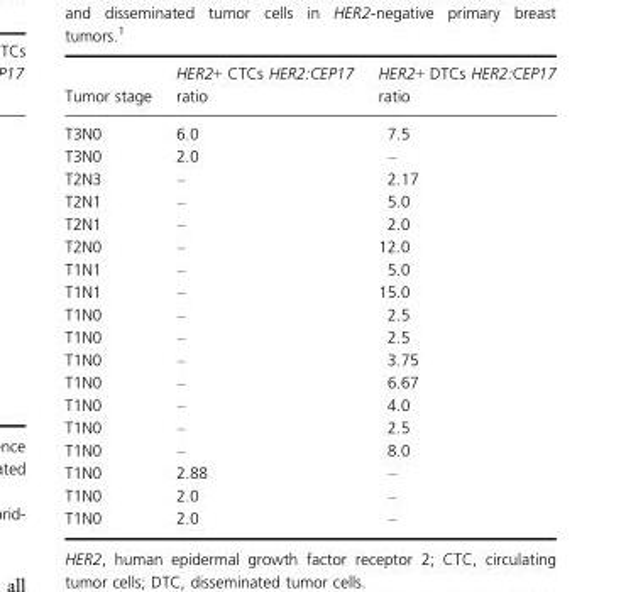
<table><thead><tr><td>Tumor stage</td><td>HER2+ CTCs HER2:CEP17 ratio</td><td>HER2+ DTCs HER2:CEP17 ratio</td></tr></thead><tbody><tr><td>T3N0</td><td>6.0</td><td>7.5</td></tr><tr><td>T3N0</td><td>2.0</td><td>–</td></tr><tr><td>T2N3</td><td>–</td><td>2.17</td></tr><tr><td>T2N1</td><td>–</td><td>5.0</td></tr><tr><td>T2N1</td><td>–</td><td>2.0</td></tr><tr><td>T2N0</td><td>–</td><td>12.0</td></tr><tr><td>T1N1</td><td>–</td><td>5.0</td></tr><tr><td>T1N1</td><td>–</td><td>15.0</td></tr><tr><td>T1N0</td><td>–</td><td>2.5</td></tr><tr><td>T1N0</td><td>–</td><td>2.5</td></tr><tr><td>T1N0</td><td>–</td><td>3.75</td></tr><tr><td>T1N0</td><td>–</td><td>6.67</td></tr><tr><td>T1N0</td><td>–</td><td>4.0</td></tr><tr><td>T1N0</td><td>–</td><td>2.5</td></tr><tr><td>T1N0</td><td>–</td><td>8.0</td></tr><tr><td>T1N0</td><td>2.88</td><td>–</td></tr><tr><td>T1N0</td><td>2.0</td><td>–</td></tr><tr><td>T1N0</td><td>2.0</td><td>–</td></tr></tbody></table>